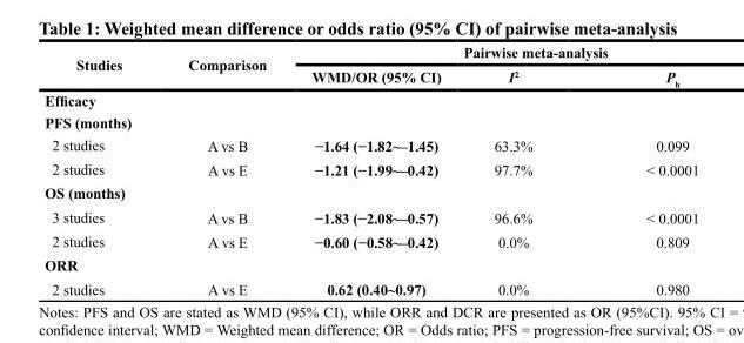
<table><thead><tr><td rowspan="2">Studies</td><td rowspan="2">Comparison</td><td colspan="3">Pairwise meta-analysis</td></tr><tr><td>WMD/OR (95% CI)</td><td>I<sup>2</sup></td><td>P<sub>h</sub></td></tr></thead><tbody><tr><td colspan="5">Efficacy</td></tr><tr><td colspan="5">PFS (months)</td></tr><tr><td>2 studies</td><td>A vs B</td><td>−1.64 (−1.82~–1.45)</td><td>63.3%</td><td>0.099</td></tr><tr><td>2 studies</td><td>A vs E</td><td>−1.21 (−1.99~–0.42)</td><td>97.7%</td><td>&lt; 0.0001</td></tr><tr><td colspan="5">OS (months)</td></tr><tr><td>3 studies</td><td>A vs B</td><td>−1.83 (−2.08~–0.57)</td><td>96.6%</td><td>&lt; 0.0001</td></tr><tr><td>2 studies</td><td>A vs E</td><td>−0.60 (−0.58~–0.42)</td><td>0.0%</td><td>0.809</td></tr><tr><td colspan="5">ORR</td></tr><tr><td>2 studies</td><td>A vs E</td><td>0.62 (0.40~0.97)</td><td>0.0%</td><td>0.980</td></tr></tbody></table>